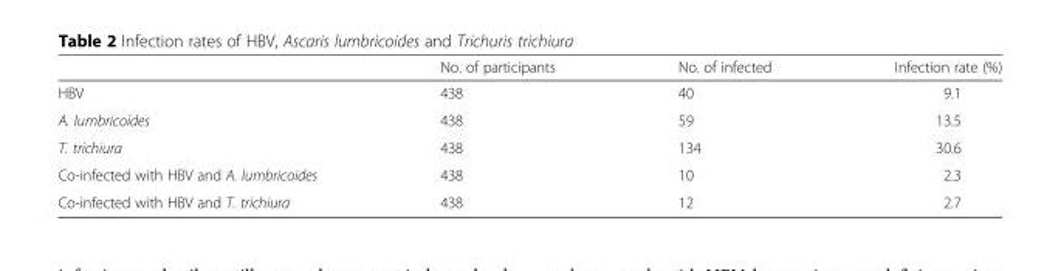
<table><thead><tr><td></td><td>No. of participants</td><td>No. of infected</td><td>Infection rate (%)</td></tr></thead><tbody><tr><td>HBV</td><td>438</td><td>40</td><td>9.1</td></tr><tr><td>A. lumbricoides</td><td>438</td><td>59</td><td>13.5</td></tr><tr><td>T. trichiura</td><td>438</td><td>134</td><td>30.6</td></tr><tr><td>Co-infected with HBV and A. lumbricoides</td><td>438</td><td>10</td><td>2.3</td></tr><tr><td>Co-infected with HBV and T. trichiura</td><td>438</td><td>12</td><td>2.7</td></tr></tbody></table>